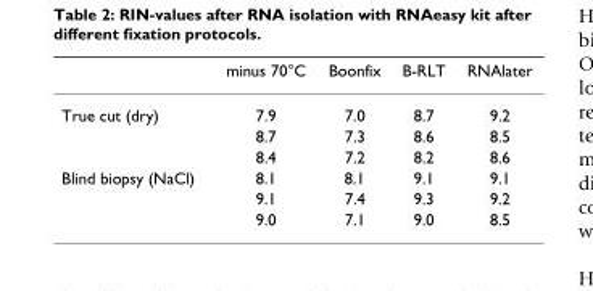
<table><thead><tr><td></td><td>minus 70°C</td><td>Boonfix</td><td>B-RLT</td><td>RNAlater</td></tr></thead><tbody><tr><td rowspan="3">True cut (dry)</td><td>7.9</td><td>7.0</td><td>8.7</td><td>9.2</td></tr><tr><td>8.7</td><td>7.3</td><td>8.6</td><td>8.5</td></tr><tr><td>8.4</td><td>7.2</td><td>8.2</td><td>8.6</td></tr><tr><td rowspan="3">Blind biopsy (NaCl)</td><td>8.1</td><td>8.1</td><td>9.1</td><td>9.1</td></tr><tr><td>9.1</td><td>7.4</td><td>9.3</td><td>9.2</td></tr><tr><td>9.0</td><td>7.1</td><td>9.0</td><td>8.5</td></tr></tbody></table>